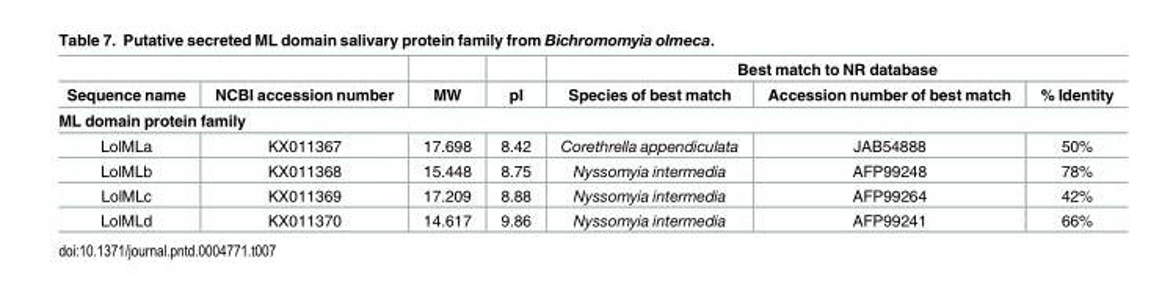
<table><thead><tr><td rowspan="2">Sequence name</td><td rowspan="2">NCBI accession number</td><td rowspan="2">MW</td><td rowspan="2">pI</td><td colspan="3">Best match to NR database</td></tr><tr><td>Species of best match</td><td>Accession number of best match</td><td>% Identity</td></tr><tr><td colspan="7">ML domain protein family</td></tr></thead><tbody><tr><td>LolMLa</td><td>KX011367</td><td>17.698</td><td>8.42</td><td>Corethrella appendiculata</td><td>JAB54888</td><td>50%</td></tr><tr><td>LolMLb</td><td>KX011368</td><td>15.448</td><td>8.75</td><td>Nyssomyia intermedia</td><td>AFP99248</td><td>78%</td></tr><tr><td>LolMLc</td><td>KX011369</td><td>17.209</td><td>8.88</td><td>Nyssomyia intermedia</td><td>AFP99264</td><td>42%</td></tr><tr><td>LolMLd</td><td>KX011370</td><td>14.617</td><td>9.86</td><td>Nyssomyia intermedia</td><td>AFP99241</td><td>66%</td></tr></tbody></table>